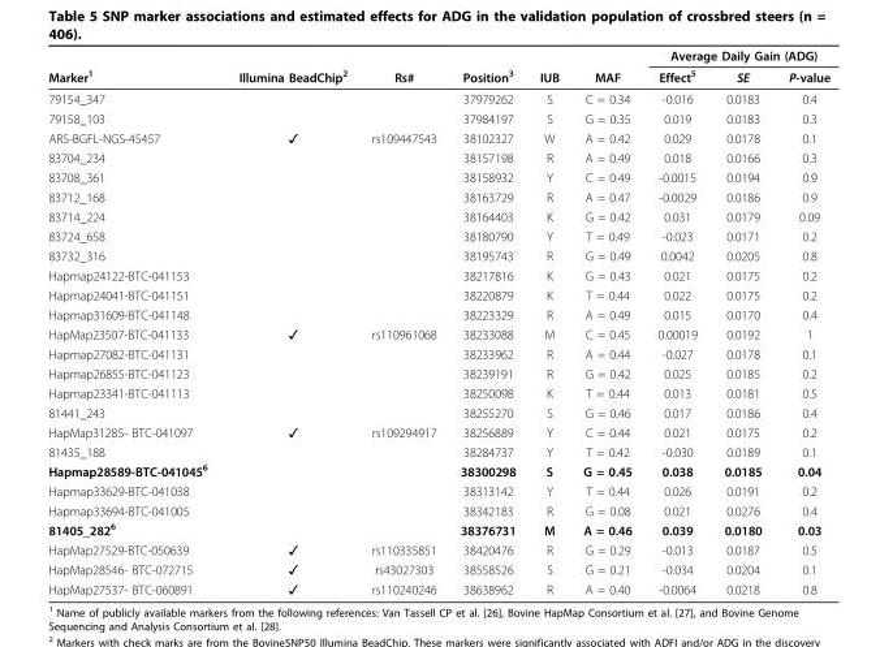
<table><thead><tr><td rowspan="2">Marker<sup>1</sup></td><td rowspan="2">Illumina BeadChip<sup>2</sup></td><td rowspan="2">Rs#</td><td rowspan="2">Position<sup>3</sup></td><td rowspan="2">IUB</td><td rowspan="2">MAF</td><td colspan="3">Average Daily Gain (ADG)</td></tr><tr><td>Effect<sup>5</sup></td><td>SE</td><td>P-value</td></tr></thead><tbody><tr><td>79154_347</td><td></td><td></td><td>37979262</td><td>S</td><td>C = 0.34</td><td>-0.016</td><td>0.0183</td><td>0.4</td></tr><tr><td>79158_103</td><td></td><td></td><td>37984197</td><td>S</td><td>G = 0.35</td><td>0.019</td><td>0.0183</td><td>0.3</td></tr><tr><td>ARS-BGFL-NGS-45457</td><td>✓</td><td>rs109447543</td><td>38102327</td><td>W</td><td>A = 0.42</td><td>0.029</td><td>0.0178</td><td>0.1</td></tr><tr><td>83704_234</td><td></td><td></td><td>38157198</td><td>R</td><td>A = 0.49</td><td>0.018</td><td>0.0166</td><td>0.3</td></tr><tr><td>83708_361</td><td></td><td></td><td>38158932</td><td>Y</td><td>C = 0.49</td><td>-0.0015</td><td>0.0194</td><td>0.9</td></tr><tr><td>83712_168</td><td></td><td></td><td>38163729</td><td>R</td><td>A = 0.47</td><td>-0.0029</td><td>0.0186</td><td>0.9</td></tr><tr><td>83714_224</td><td></td><td></td><td>38164403</td><td>K</td><td>G = 0.42</td><td>0.031</td><td>0.0179</td><td>0.09</td></tr><tr><td>83724_658</td><td></td><td></td><td>38180790</td><td>Y</td><td>T = 0.49</td><td>-0.023</td><td>0.0171</td><td>0.2</td></tr><tr><td>83732_316</td><td></td><td></td><td>38195743</td><td>R</td><td>G = 0.49</td><td>0.0042</td><td>0.0205</td><td>0.8</td></tr><tr><td>Hapmap24122-BTC-041153</td><td></td><td></td><td>38217816</td><td>K</td><td>G = 0.43</td><td>0.021</td><td>0.0175</td><td>0.2</td></tr><tr><td>Hapmap24041-BTC-041151</td><td></td><td></td><td>38220879</td><td>K</td><td>T = 0.44</td><td>0.022</td><td>0.0175</td><td>0.2</td></tr><tr><td>Hapmap31609-BTC-041148</td><td></td><td></td><td>38223329</td><td>R</td><td>A = 0.49</td><td>0.015</td><td>0.0170</td><td>0.4</td></tr><tr><td>HapMap23507-BTC-041133</td><td>✓</td><td>rs110961068</td><td>38233088</td><td>M</td><td>C = 0.45</td><td>0.00019</td><td>0.0192</td><td>1</td></tr><tr><td>Hapmap27082-BTC-041131</td><td></td><td></td><td>38233962</td><td>R</td><td>A = 0.44</td><td>-0.027</td><td>0.0178</td><td>0.1</td></tr><tr><td>Hapmap26855-BTC-041123</td><td></td><td></td><td>38239191</td><td>R</td><td>G = 0.42</td><td>0.025</td><td>0.0185</td><td>0.2</td></tr><tr><td>Hapmap23341-BTC-041113</td><td></td><td></td><td>38250098</td><td>K</td><td>T = 0.44</td><td>0.013</td><td>0.0181</td><td>0.5</td></tr><tr><td>81441_243</td><td></td><td></td><td>38255270</td><td>S</td><td>G = 0.46</td><td>0.017</td><td>0.0186</td><td>0.4</td></tr><tr><td>HapMap31285- BTC-041097</td><td>✓</td><td>rs109294917</td><td>38256889</td><td>Y</td><td>C = 0.44</td><td>0.021</td><td>0.0175</td><td>0.2</td></tr><tr><td>81435_188</td><td></td><td></td><td>38284737</td><td>Y</td><td>T = 0.42</td><td>-0.030</td><td>0.0189</td><td>0.1</td></tr><tr><td>Hapmap28589-BTC-041045<sup>6</sup></td><td></td><td></td><td>38300298</td><td>S</td><td>G = 0.45</td><td>0.038</td><td>0.0185</td><td>0.04</td></tr><tr><td>Hapmap33629-BTC-041038</td><td></td><td></td><td>38313142</td><td>Y</td><td>T = 0.44</td><td>0.026</td><td>0.0191</td><td>0.2</td></tr><tr><td>Hapmap33694-BTC-041005</td><td></td><td></td><td>38342183</td><td>R</td><td>G = 0.08</td><td>0.021</td><td>0.0276</td><td>0.4</td></tr><tr><td>81405_282<sup>6</sup></td><td></td><td></td><td>38376731</td><td>M</td><td>A = 0.46</td><td>0.039</td><td>0.0180</td><td>0.03</td></tr><tr><td>HapMap27529-BTC-050639</td><td>✓</td><td>rs110335851</td><td>38420476</td><td>R</td><td>G = 0.29</td><td>-0.013</td><td>0.0187</td><td>0.5</td></tr><tr><td>HapMap28546- BTC-072715</td><td>✓</td><td>rs43027303</td><td>38558526</td><td>S</td><td>G = 0.21</td><td>-0.034</td><td>0.0204</td><td>0.1</td></tr><tr><td>HapMap27537- BTC-060891</td><td>✓</td><td>rs110240246</td><td>38638962</td><td>R</td><td>A = 0.40</td><td>-0.0064</td><td>0.0218</td><td>0.8</td></tr></tbody></table>